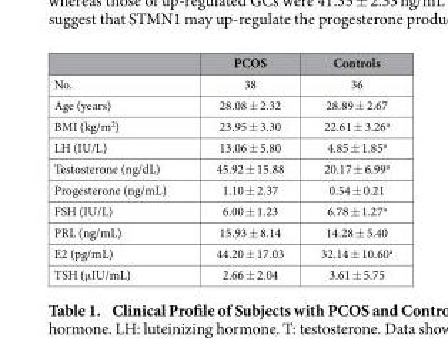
<table><thead><tr><td></td><td>PCOS</td><td>Controls</td></tr></thead><tbody><tr><td>No.</td><td>38</td><td>36</td></tr><tr><td>Age (years)</td><td>28.08 ± 2.32</td><td>28.89 ± 2.67</td></tr><tr><td>BMI (kg/m<sup>2</sup>)</td><td>23.95 ± 3.30</td><td>22.61 ± 3.26<sup>a</sup></td></tr><tr><td>LH (IU/L)</td><td>13.06 ± 5.80</td><td>4.85 ± 1.85<sup>a</sup></td></tr><tr><td>Testosterone (ng/dL)</td><td>45.92 ± 15.88</td><td>20.17 ± 6.99<sup>a</sup></td></tr><tr><td>Progesterone (ng/mL)</td><td>1.10 ± 2.37</td><td>0.54 ± 0.21</td></tr><tr><td>FSH (IU/L)</td><td>6.00 ± 1.23</td><td>6.78 ± 1.27<sup>a</sup></td></tr><tr><td>PRL (ng/mL)</td><td>15.93 ± 8.14</td><td>14.28 ± 5.40</td></tr><tr><td>E2 (pg/mL)</td><td>44.20 ± 17.03</td><td>32.14 ± 10.60<sup>a</sup></td></tr><tr><td>TSH (μ IU/mL)</td><td>2.66 ± 2.04</td><td>3.61 ± 5.75</td></tr></tbody></table>